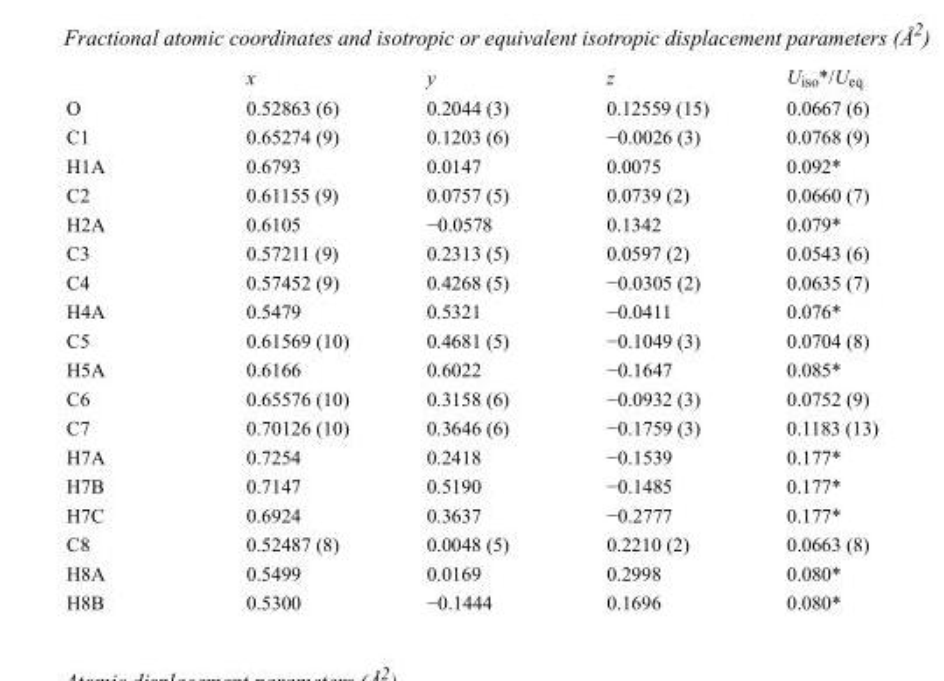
<table><thead><tr><td></td><td>x</td><td>y</td><td>z</td><td>U<sub>iso</sub>*/U<sub>eq</sub></td></tr></thead><tbody><tr><td>O</td><td>0.52863 (6)</td><td>0.2044 (3)</td><td>0.12559 (15)</td><td>0.0667 (6)</td></tr><tr><td>C1</td><td>0.65274 (9)</td><td>0.1203 (6)</td><td>−0.0026 (3)</td><td>0.0768 (9)</td></tr><tr><td>H1A</td><td>0.6793</td><td>0.0147</td><td>0.0075</td><td>0.092*</td></tr><tr><td>C2</td><td>0.61155 (9)</td><td>0.0757 (5)</td><td>0.0739 (2)</td><td>0.0660 (7)</td></tr><tr><td>H2A</td><td>0.6105</td><td>−0.0578</td><td>0.1342</td><td>0.079*</td></tr><tr><td>C3</td><td>0.57211 (9)</td><td>0.2313 (5)</td><td>0.0597 (2)</td><td>0.0543 (6)</td></tr><tr><td>C4</td><td>0.57452 (9)</td><td>0.4268 (5)</td><td>−0.0305 (2)</td><td>0.0635 (7)</td></tr><tr><td>H4A</td><td>0.5479</td><td>0.5321</td><td>−0.0411</td><td>0.076*</td></tr><tr><td>C5</td><td>0.61569 (10)</td><td>0.4681 (5)</td><td>−0.1049 (3)</td><td>0.0704 (8)</td></tr><tr><td>H5A</td><td>0.6166</td><td>0.6022</td><td>−0.1647</td><td>0.085*</td></tr><tr><td>C6</td><td>0.65576 (10)</td><td>0.3158 (6)</td><td>−0.0932 (3)</td><td>0.0752 (9)</td></tr><tr><td>C7</td><td>0.70126 (10)</td><td>0.3646 (6)</td><td>−0.1759 (3)</td><td>0.1183 (13)</td></tr><tr><td>H7A</td><td>0.7254</td><td>0.2418</td><td>−0.1539</td><td>0.177*</td></tr><tr><td>H7B</td><td>0.7147</td><td>0.5190</td><td>−0.1485</td><td>0.177*</td></tr><tr><td>H7C</td><td>0.6924</td><td>0.3637</td><td>−0.2777</td><td>0.177*</td></tr><tr><td>C8</td><td>0.52487 (8)</td><td>0.0048 (5)</td><td>0.2210 (2)</td><td>0.0663 (8)</td></tr><tr><td>H8A</td><td>0.5499</td><td>0.0169</td><td>0.2998</td><td>0.080*</td></tr><tr><td>H8B</td><td>0.5300</td><td>−0.1444</td><td>0.1696</td><td>0.080*</td></tr></tbody></table>